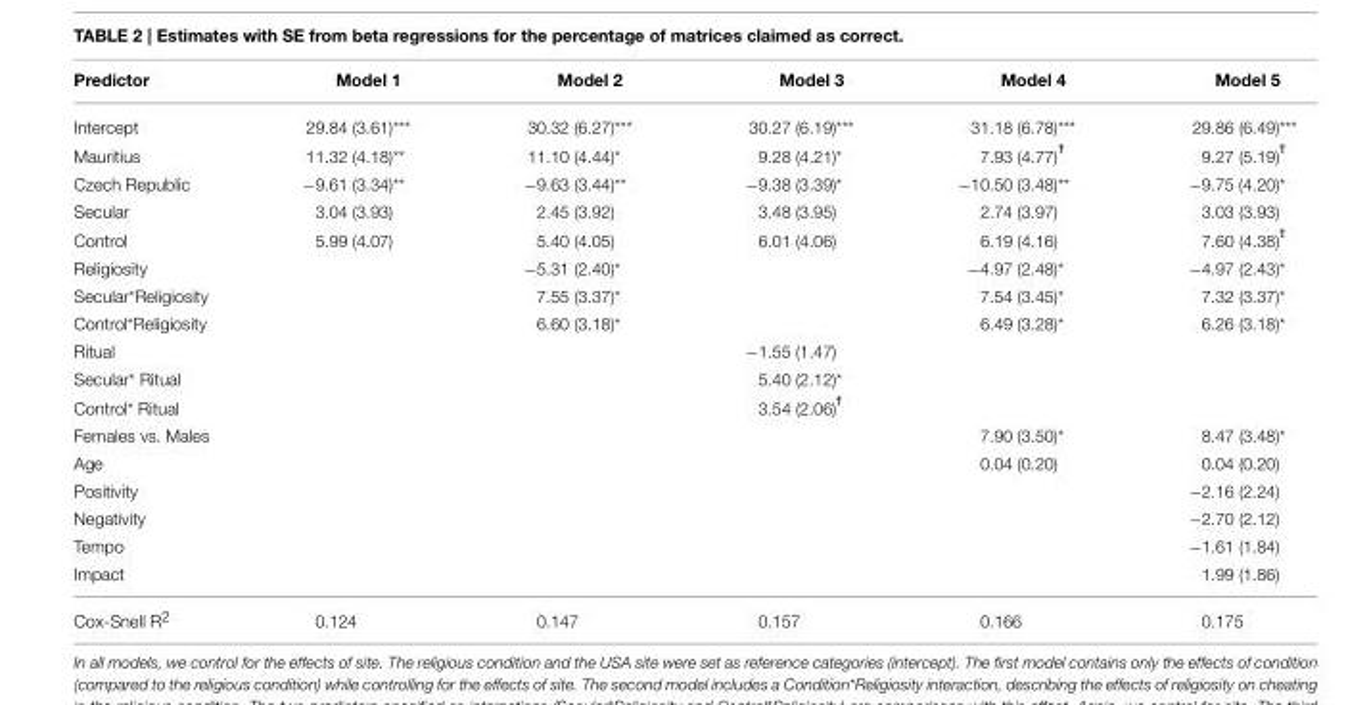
<table><thead><tr><td>Predictor</td><td>Model 1</td><td>Model 2</td><td>Model 3</td><td>Model 4</td><td>Model 5</td></tr></thead><tbody><tr><td>Intercept</td><td>29.84 (3.61)***</td><td>30.32 (6.27)***</td><td>30.27 (6.19)***</td><td>31.18 (6.78)***</td><td>29.86 (6.49)***</td></tr><tr><td>Mauritius</td><td>11.32 (4.18)**</td><td>11.10 (4.44)*</td><td>9.28 (4.21)*</td><td>7.93 (4.77)<sup>Ϯ</sup></td><td>9.27 (5.19)<sup>Ϯ</sup></td></tr><tr><td>Czech Republic</td><td>−9.61 (3.34)**</td><td>−9.63 (3.44)**</td><td>−9.38 (3.39)*</td><td>−10.50 (3.48)**</td><td>−9.75 (4.20)*</td></tr><tr><td>Secular</td><td>3.04 (3.93)</td><td>2.45 (3.92)</td><td>3.48 (3.95)</td><td>2.74 (3.97)</td><td>3.03 (3.93)</td></tr><tr><td>Control</td><td>5.99 (4.07)</td><td>5.40 (4.05)</td><td>6.01 (4.06)</td><td>6.19 (4.16)</td><td>7.60 (4.38)<sup>Ϯ</sup></td></tr><tr><td>Religiosity</td><td></td><td>−5.31 (2.40)*</td><td></td><td>−4.97 (2.48)*</td><td>−4.97 (2.43)*</td></tr><tr><td>Secular*Religiosity</td><td></td><td>7.55 (3.37)*</td><td></td><td>7.54 (3.45)*</td><td>7.32 (3.37)*</td></tr><tr><td>Control*Religiosity</td><td></td><td>6.60 (3.18)*</td><td></td><td>6.49 (3.28)*</td><td>6.26 (3.18)*</td></tr><tr><td>Ritual</td><td></td><td></td><td>−1.55 (1.47)</td><td></td><td></td></tr><tr><td>Secular* Ritual</td><td></td><td></td><td>5.40 (2.12)*</td><td></td><td></td></tr><tr><td>Control* Ritual</td><td></td><td></td><td>3.54 (2.06)<sup>Ϯ</sup></td><td></td><td></td></tr><tr><td>Females vs. Males</td><td></td><td></td><td></td><td>7.90 (3.50)*</td><td>8.47 (3.48)*</td></tr><tr><td>Age</td><td></td><td></td><td></td><td>0.04 (0.20)</td><td>0.04 (0.20)</td></tr><tr><td>Positivity</td><td></td><td></td><td></td><td></td><td>−2.16 (2.24)</td></tr><tr><td>Negativity</td><td></td><td></td><td></td><td></td><td>−2.70 (2.12)</td></tr><tr><td>Tempo</td><td></td><td></td><td></td><td></td><td>−1.61 (1.84)</td></tr><tr><td>Impact</td><td></td><td></td><td></td><td></td><td>1.99 (1.86)</td></tr><tr><td>Cox-Snell R<sup>2</sup></td><td>0.124</td><td>0.147</td><td>0.157</td><td>0.166</td><td>0.175</td></tr></tbody></table>